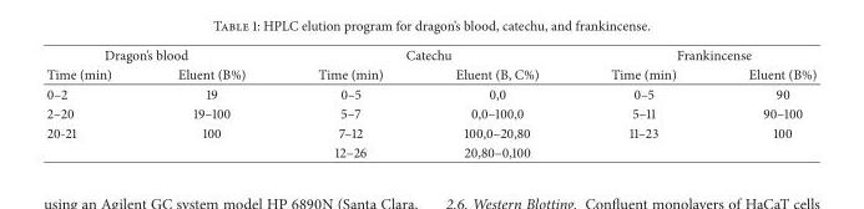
<table><thead><tr><td colspan="2">Dragon’s blood</td><td colspan="2">Catechu</td><td colspan="2">Frankincense</td></tr><tr><td>Time (min)</td><td>Eluent (B%)</td><td>Time (min)</td><td>Eluent (B, C%)</td><td>Time (min)</td><td>Eluent (B%)</td></tr></thead><tbody><tr><td>0–2</td><td>19</td><td>0–5</td><td>0,0</td><td>0–5</td><td>90</td></tr><tr><td>2–20</td><td>19–100</td><td>5–7</td><td>0,0–100,0</td><td>5–11</td><td>90–100</td></tr><tr><td rowspan="2">20-21</td><td>100</td><td>7–12</td><td>100,0–20,80</td><td>11–23</td><td>100</td></tr><tr><td></td><td>12–26</td><td>20,80–0,100</td><td></td><td></td></tr></tbody></table>